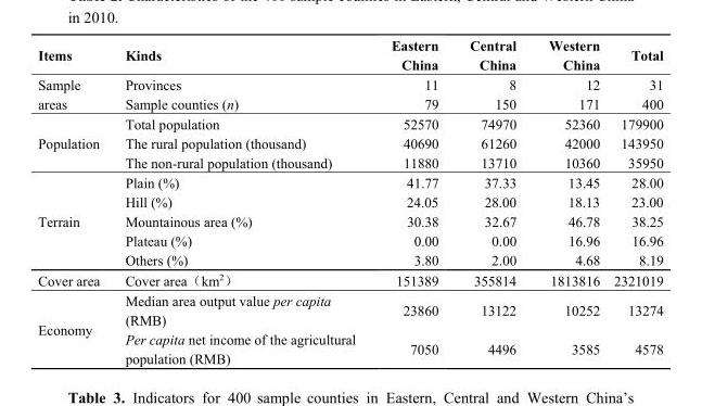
<table><thead><tr><td>Items</td><td>Kinds</td><td>Eastern China</td><td>Central China</td><td>Western China</td><td>Total</td></tr></thead><tbody><tr><td rowspan="2">Sample areas</td><td>Provinces</td><td>11</td><td>8</td><td>12</td><td>31</td></tr><tr><td>Sample counties (n)</td><td>79</td><td>150</td><td>171</td><td>400</td></tr><tr><td rowspan="3">Population</td><td>Total population</td><td>52570</td><td>74970</td><td>52360</td><td>179900</td></tr><tr><td>The rural population (thousand)</td><td>40690</td><td>61260</td><td>42000</td><td>143950</td></tr><tr><td>The non-rural population (thousand)</td><td>11880</td><td>13710</td><td>10360</td><td>35950</td></tr><tr><td rowspan="5">Terrain</td><td>Plain (%)</td><td>41.77</td><td>37.33</td><td>13.45</td><td>28.00</td></tr><tr><td>Hill (%)</td><td>24.05</td><td>28.00</td><td>18.13</td><td>23.00</td></tr><tr><td>Mountainous area (%)</td><td>30.38</td><td>32.67</td><td>46.78</td><td>38.25</td></tr><tr><td>Plateau (%)</td><td>0.00</td><td>0.00</td><td>16.96</td><td>16.96</td></tr><tr><td>Others (%)</td><td>3.80</td><td>2.00</td><td>4.68</td><td>8.19</td></tr><tr><td>Cover area</td><td>Cover area（km<sup>2</sup>）</td><td>151389</td><td>355814</td><td>1813816</td><td>2321019</td></tr><tr><td rowspan="2">Economy</td><td>Median area output value per capita (RMB)</td><td>23860</td><td>13122</td><td>10252</td><td>13274</td></tr><tr><td>Per capita net income of the agricultural population (RMB)</td><td>7050</td><td>4496</td><td>3585</td><td>4578</td></tr></tbody></table>